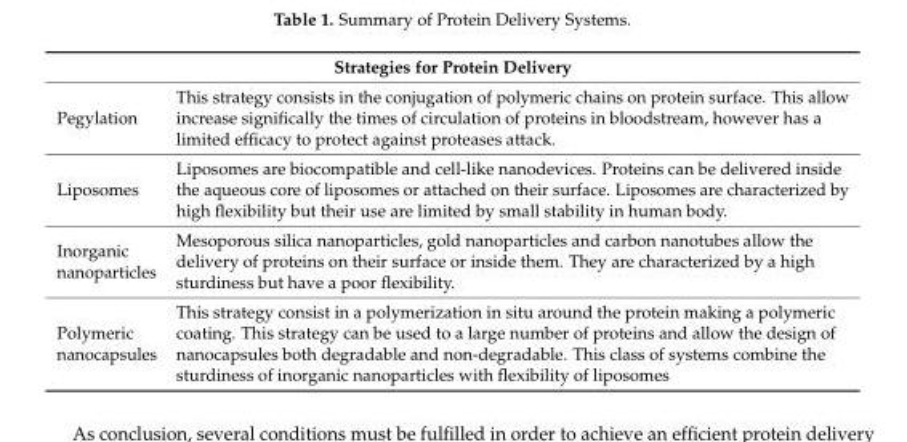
<table><thead><tr><td colspan="2">Strategies for Protein Delivery</td></tr><tr><td>Pegylation</td><td>This strategy consists in the conjugation of polymeric chains on protein surface. This allow increase significally the times of circulation of proteins in bloodstream, however has a limited efficacy to protect against proteases attack.</td></tr></thead><tbody><tr><td>Liposomes</td><td>Liposomes are biocompatible and cell-like nanodevices. Proteins can be delivered inside the aqueous core of liposomes or attached on their surface. Liposomes are characterized by high flexibility but their use are limited by small stability in human body.</td></tr><tr><td>Inorganic nanoparticles</td><td>Mesoporous silica nanoparticles, gold nanoparticles and carbon nanotubes allow the delivery of proteins on their surface or inside them. They are characterized by a high sturdiness but have a poor flexibility.</td></tr><tr><td>Polymeric nanocapsules</td><td>This strategy consist in a polymerization in situ around the protein making a polymeric coating. This strategy can be used to a large number of proteins and allow the design of nanocapsules both degradable and non-degradable. This class of systems combine the sturdiness of inorganic nanoparticles with flexibility of liposomes</td></tr></tbody></table>